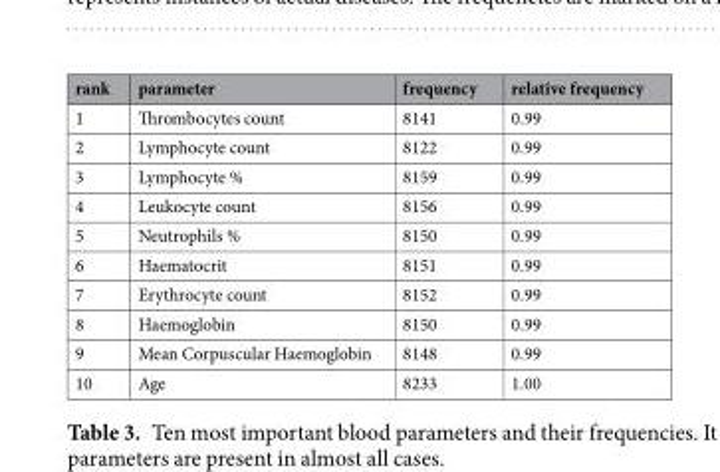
<table><thead><tr><td>rank</td><td>parameter</td><td>frequency</td><td>relative frequency</td></tr></thead><tbody><tr><td>1</td><td>Thrombocytes count</td><td>8141</td><td>0.99</td></tr><tr><td>2</td><td>Lymphocyte count</td><td>8122</td><td>0.99</td></tr><tr><td>3</td><td>Lymphocyte %</td><td>8159</td><td>0.99</td></tr><tr><td>4</td><td>Leukocyte count</td><td>8156</td><td>0.99</td></tr><tr><td>5</td><td>Neutrophils %</td><td>8150</td><td>0.99</td></tr><tr><td>6</td><td>Haematocrit</td><td>8151</td><td>0.99</td></tr><tr><td>7</td><td>Erythrocyte count</td><td>8152</td><td>0.99</td></tr><tr><td>8</td><td>Haemoglobin</td><td>8150</td><td>0.99</td></tr><tr><td>9</td><td>Mean Corpuscular Haemoglobin</td><td>8148</td><td>0.99</td></tr><tr><td>10</td><td>Age</td><td>8233</td><td>1.00</td></tr></tbody></table>